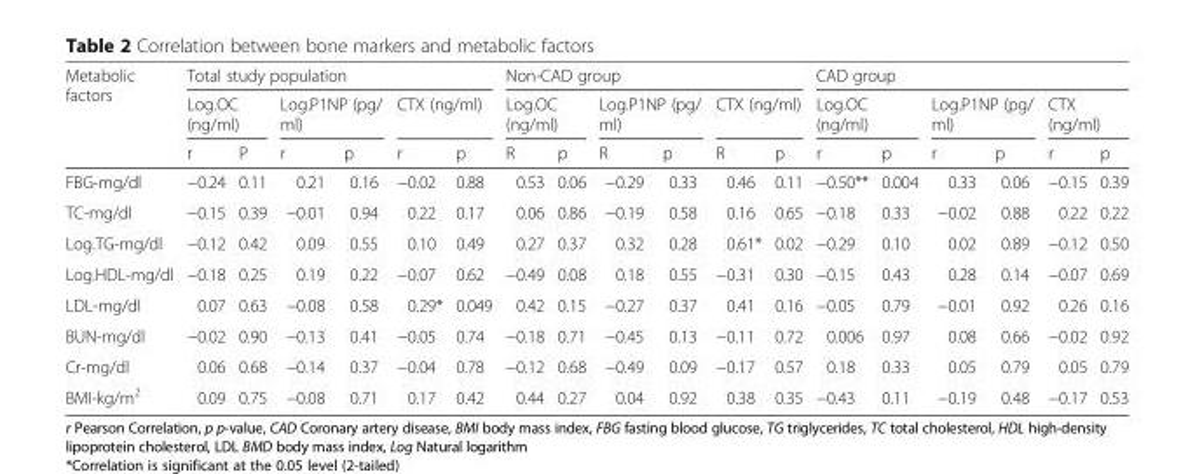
<table><thead><tr><td rowspan="3">Metabolic factors</td><td colspan="6">Total study population</td><td colspan="6">Non-CAD group</td><td colspan="6">CAD group</td></tr><tr><td colspan="2">Log.OC (ng/ml)</td><td colspan="2">Log.P1NP (pg/ ml)</td><td colspan="2">CTX (ng/ml)</td><td colspan="2">Log.OC (ng/ml)</td><td colspan="2">Log.P1NP (pg/ ml)</td><td colspan="2">CTX (ng/ml)</td><td colspan="2">Log.OC (ng/ml)</td><td colspan="2">Log.P1NP (pg/ ml)</td><td colspan="2">CTX (ng/ml)</td></tr><tr><td>r</td><td>P</td><td>r</td><td>p</td><td>r</td><td>p</td><td>R</td><td>p</td><td>R</td><td>p</td><td>R</td><td>p</td><td>r</td><td>p</td><td>r</td><td>p</td><td>r</td><td>p</td></tr></thead><tbody><tr><td>FBG-mg/dl</td><td>−0.24</td><td>0.11</td><td>0.21</td><td>0.16</td><td>−0.02</td><td>0.88</td><td>0.53</td><td>0.06</td><td>−0.29</td><td>0.33</td><td>0.46</td><td>0.11</td><td>−0.50**</td><td>0.004</td><td>0.33</td><td>0.06</td><td>−0.15</td><td>0.39</td></tr><tr><td>TC-mg/dl</td><td>−0.15</td><td>0.39</td><td>−0.01</td><td>0.94</td><td>0.22</td><td>0.17</td><td>0.06</td><td>0.86</td><td>−0.19</td><td>0.58</td><td>0.16</td><td>0.65</td><td>−0.18</td><td>0.33</td><td>−0.02</td><td>0.88</td><td>0.22</td><td>0.22</td></tr><tr><td>Log.TG-mg/dl</td><td>−0.12</td><td>0.42</td><td>0.09</td><td>0.55</td><td>0.10</td><td>0.49</td><td>0.27</td><td>0.37</td><td>0.32</td><td>0.28</td><td>0.61*</td><td>0.02</td><td>−0.29</td><td>0.10</td><td>0.02</td><td>0.89</td><td>−0.12</td><td>0.50</td></tr><tr><td>Log.HDL-mg/dl</td><td>−0.18</td><td>0.25</td><td>0.19</td><td>0.22</td><td>−0.07</td><td>0.62</td><td>−0.49</td><td>0.08</td><td>0.18</td><td>0.55</td><td>−0.31</td><td>0.30</td><td>−0.15</td><td>0.43</td><td>0.28</td><td>0.14</td><td>−0.07</td><td>0.69</td></tr><tr><td>LDL-mg/dl</td><td>0.07</td><td>0.63</td><td>−0.08</td><td>0.58</td><td>0.29*</td><td>0.049</td><td>0.42</td><td>0.15</td><td>−0.27</td><td>0.37</td><td>0.41</td><td>0.16</td><td>−0.05</td><td>0.79</td><td>−0.01</td><td>0.92</td><td>0.26</td><td>0.16</td></tr><tr><td>BUN-mg/dl</td><td>−0.02</td><td>0.90</td><td>−0.13</td><td>0.41</td><td>−0.05</td><td>0.74</td><td>−0.18</td><td>0.71</td><td>−0.45</td><td>0.13</td><td>−0.11</td><td>0.72</td><td>0.006</td><td>0.97</td><td>0.08</td><td>0.66</td><td>−0.02</td><td>0.92</td></tr><tr><td>Cr-mg/dl</td><td>0.06</td><td>0.68</td><td>−0.14</td><td>0.37</td><td>−0.04</td><td>0.78</td><td>−0.12</td><td>0.68</td><td>−0.49</td><td>0.09</td><td>−0.17</td><td>0.57</td><td>0.18</td><td>0.33</td><td>0.05</td><td>0.79</td><td>0.05</td><td>0.79</td></tr><tr><td>BMI-kg/m<sup>2</sup></td><td>0.09</td><td>0.75</td><td>−0.08</td><td>0.71</td><td>0.17</td><td>0.42</td><td>0.44</td><td>0.27</td><td>0.04</td><td>0.92</td><td>0.38</td><td>0.35</td><td>−0.43</td><td>0.11</td><td>−0.19</td><td>0.48</td><td>−0.17</td><td>0.53</td></tr></tbody></table>